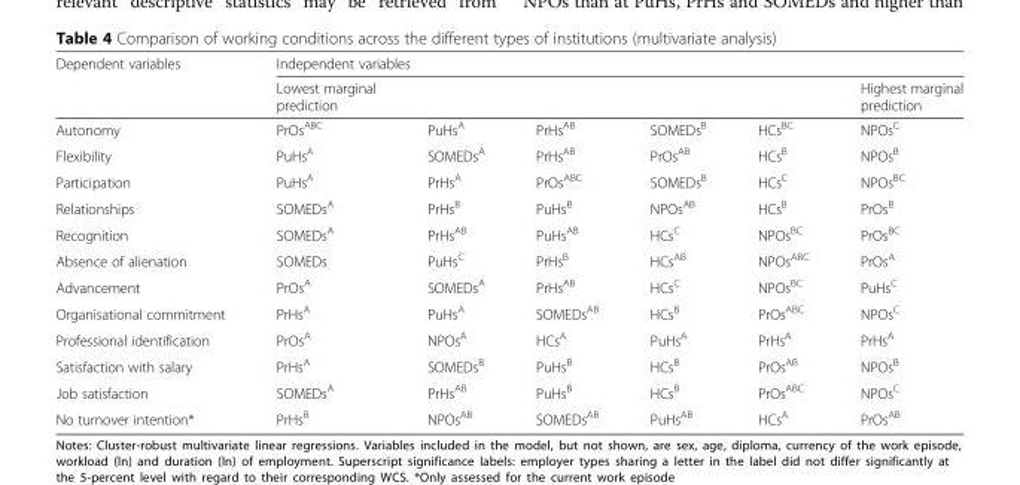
<table><thead><tr><td rowspan="2">Dependent variables</td><td colspan="6">Independent variables</td></tr><tr><td>Lowest marginal prediction</td><td></td><td></td><td></td><td></td><td>Highest marginal prediction</td></tr></thead><tbody><tr><td>Autonomy</td><td>PrOs<sup>ABC</sup></td><td>PuHs<sup>A</sup></td><td>PrHs<sup>AB</sup></td><td>SOMEDs<sup>B</sup></td><td>HCs<sup>BC</sup></td><td>NPOs<sup>C</sup></td></tr><tr><td>Flexibility</td><td>PuHs<sup>A</sup></td><td>SOMEDs<sup>A</sup></td><td>PrHs<sup>AB</sup></td><td>PrOs<sup>AB</sup></td><td>HCs<sup>B</sup></td><td>NPOs<sup>B</sup></td></tr><tr><td>Participation</td><td>PuHs<sup>A</sup></td><td>PrHs<sup>A</sup></td><td>PrOs<sup>ABC</sup></td><td>SOMEDs<sup>B</sup></td><td>HCs<sup>C</sup></td><td>NPOs<sup>BC</sup></td></tr><tr><td>Relationships</td><td>SOMEDs<sup>A</sup></td><td>PrHs<sup>B</sup></td><td>PuHs<sup>B</sup></td><td>NPOs<sup>AB</sup></td><td>HCs<sup>B</sup></td><td>PrOs<sup>B</sup></td></tr><tr><td>Recognition</td><td>SOMEDs<sup>A</sup></td><td>PrHs<sup>AB</sup></td><td>PuHs<sup>AB</sup></td><td>HCs<sup>C</sup></td><td>NPOs<sup>BC</sup></td><td>PrOs<sup>BC</sup></td></tr><tr><td>Absence of alienation</td><td>SOMEDs</td><td>PuHs<sup>C</sup></td><td>PrHs<sup>B</sup></td><td>HCs<sup>AB</sup></td><td>NPOs<sup>ABC</sup></td><td>PrOs<sup>A</sup></td></tr><tr><td>Advancement</td><td>PrOs<sup>A</sup></td><td>SOMEDs<sup>A</sup></td><td>PrHs<sup>AB</sup></td><td>HCs<sup>C</sup></td><td>NPOs<sup>BC</sup></td><td>PuHs<sup>C</sup></td></tr><tr><td>Organisational commitment</td><td>PrHs<sup>A</sup></td><td>PuHs<sup>A</sup></td><td>SOMEDs<sup>AB</sup></td><td>HCs<sup>B</sup></td><td>PrOs<sup>ABC</sup></td><td>NPOs<sup>C</sup></td></tr><tr><td>Professional identification</td><td>PrOs<sup>A</sup></td><td>NPOs<sup>A</sup></td><td>HCs<sup>A</sup></td><td>PuHs<sup>A</sup></td><td>PrHs<sup>A</sup></td><td>PrHs<sup>A</sup></td></tr><tr><td>Satisfaction with salary</td><td>PrHs<sup>A</sup></td><td>SOMEDs<sup>B</sup></td><td>PuHs<sup>B</sup></td><td>HCs<sup>B</sup></td><td>PrOs<sup>AB</sup></td><td>NPOs<sup>B</sup></td></tr><tr><td>Job satisfaction</td><td>SOMEDs<sup>A</sup></td><td>PrHs<sup>AB</sup></td><td>PuHs<sup>B</sup></td><td>HCs<sup>B</sup></td><td>PrOs<sup>ABC</sup></td><td>NPOs<sup>C</sup></td></tr><tr><td>No turnover intention*</td><td>PrHs<sup>B</sup></td><td>NPOs<sup>AB</sup></td><td>SOMEDs<sup>AB</sup></td><td>PuHs<sup>AB</sup></td><td>HCs<sup>A</sup></td><td>PrOs<sup>AB</sup></td></tr></tbody></table>